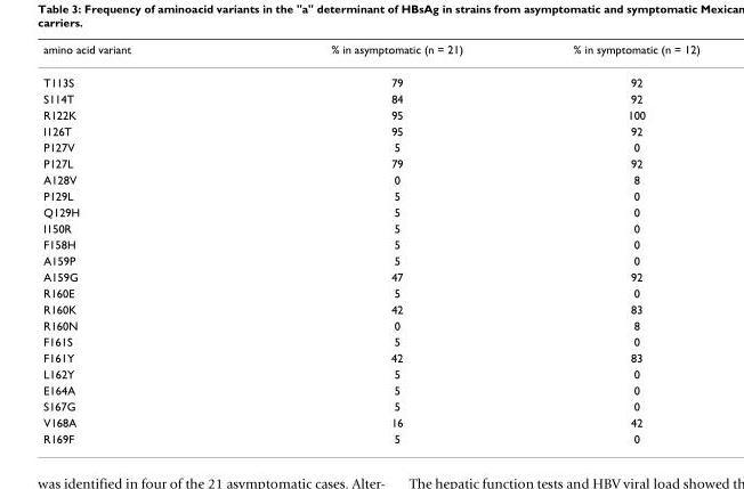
<table><thead><tr><td>amino acid variant</td><td>% in asymptomatic (n = 21)</td><td>% in symptomatic (n = 12)</td></tr></thead><tbody><tr><td>T113S</td><td>79</td><td>92</td></tr><tr><td>S114T</td><td>84</td><td>92</td></tr><tr><td>R122K</td><td>95</td><td>100</td></tr><tr><td>I126T</td><td>95</td><td>92</td></tr><tr><td>P127V</td><td>5</td><td>0</td></tr><tr><td>P127L</td><td>79</td><td>92</td></tr><tr><td>A128V</td><td>0</td><td>8</td></tr><tr><td>P129L</td><td>5</td><td>0</td></tr><tr><td>Q129H</td><td>5</td><td>0</td></tr><tr><td>I150R</td><td>5</td><td>0</td></tr><tr><td>F158H</td><td>5</td><td>0</td></tr><tr><td>A159P</td><td>5</td><td>0</td></tr><tr><td>A159G</td><td>47</td><td>92</td></tr><tr><td>R160E</td><td>5</td><td>0</td></tr><tr><td>R160K</td><td>42</td><td>83</td></tr><tr><td>R160N</td><td>0</td><td>8</td></tr><tr><td>F161S</td><td>5</td><td>0</td></tr><tr><td>F161Y</td><td>42</td><td>83</td></tr><tr><td>L162Y</td><td>5</td><td>0</td></tr><tr><td>E164A</td><td>5</td><td>0</td></tr><tr><td>S167G</td><td>5</td><td>0</td></tr><tr><td>V168A</td><td>16</td><td>42</td></tr><tr><td>R169F</td><td>5</td><td>0</td></tr></tbody></table>